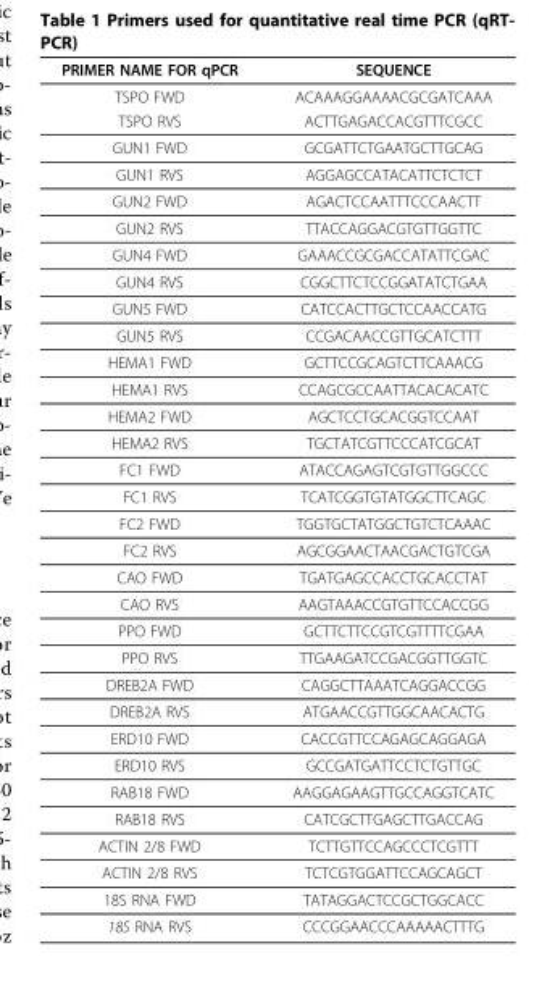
<table><thead><tr><td>PRIMER NAME FOR qPCR</td><td>SEQUENCE</td></tr></thead><tbody><tr><td>TSPO FWD</td><td>ACAAAGGAAAACGCGATCAAA</td></tr><tr><td>TSPO RVS</td><td>ACTTGAGACCACGTTTCGCC</td></tr><tr><td>GUN1 FWD</td><td>GCGATTCTGAATGCTTGCAG</td></tr><tr><td>GUN1 RVS</td><td>AGGAGCCATACATTCTCTCT</td></tr><tr><td>GUN2 FWD</td><td>AGACTCCAATTTCCCAACTT</td></tr><tr><td>GUN2 RVS</td><td>TTACCAGGACGTGTTGGTTC</td></tr><tr><td>GUN4 FWD</td><td>GAAACCGCGACCATATTCGAC</td></tr><tr><td>GUN4 RVS</td><td>CGGCTTCTCCGGATATCTGAA</td></tr><tr><td>GUN5 FWD</td><td>CATCCACTTGCTCCAACCATG</td></tr><tr><td>GUN5 RVS</td><td>CCGACAACCGTTGCATCTTT</td></tr><tr><td>HEMA1 FWD</td><td>GCTTCCGCAGTCTTCAAACG</td></tr><tr><td>HEMA1 RVS</td><td>CCAGCGCCAATTACACACATC</td></tr><tr><td>HEMA2 FWD</td><td>AGCTCCTGCACGGTCCAAT</td></tr><tr><td>HEMA2 RVS</td><td>TGCTATCGTTCCCATCGCAT</td></tr><tr><td>FC1 FWD</td><td>ATACCAGAGTCGTGTTGGCCC</td></tr><tr><td>FC1 RVS</td><td>TCATCGGTGTATGGCTTCAGC</td></tr><tr><td>FC2 FWD</td><td>TGGTGCTATGGCTGTCTCAAAC</td></tr><tr><td>FC2 RVS</td><td>AGCGGAACTAACGACTGTCGA</td></tr><tr><td>CAO FWD</td><td>TGATGAGCCACCTGCACCTAT</td></tr><tr><td>CAO RVS</td><td>AAGTAAACCGTGTTCCACCGG</td></tr><tr><td>PPO FWD</td><td>GCTTCTTCCGTCGTTTTCGAA</td></tr><tr><td>PPO RVS</td><td>TTGAAGATCCGACGGTTGGTC</td></tr><tr><td>DREB2A FWD</td><td>CAGGCTTAAATCAGGACCGG</td></tr><tr><td>DREB2A RVS</td><td>ATGAACCGTTGGCAACACTG</td></tr><tr><td>ERD10 FWD</td><td>CACCGTTCCAGAGCAGGAGA</td></tr><tr><td>ERD10 RVS</td><td>GCCGATGATTCCTCTGTTGC</td></tr><tr><td>RAB18 FWD</td><td>AAGGAGAAGTTGCCAGGTCATC</td></tr><tr><td>RAB18 RVS</td><td>CATCGCTTGAGCTTGACCAG</td></tr><tr><td>ACTIN 2/8 FWD</td><td>TCTTGTTCCAGCCCTCGTTT</td></tr><tr><td>ACTIN 2/8 RVS</td><td>TCTCGTGGATTCCAGCAGCT</td></tr><tr><td>18S RNA FWD</td><td>TATAGGACTCCGCTGGCACC</td></tr><tr><td>18S RNA RVS</td><td>CCCGGAACCCAAAAACTTTG</td></tr></tbody></table>